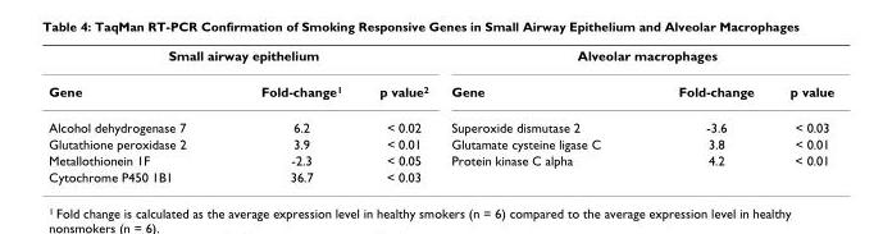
<table><tbody><tr><td colspan="3">Small airway epithelium</td><td colspan="3">Alveolar macrophages</td></tr><tr><td>Gene</td><td>Fold-change<sup>1</sup></td><td>p value<sup>2</sup></td><td>Gene</td><td>Fold-change</td><td>p value</td></tr><tr><td>Alcohol dehydrogenase 7</td><td>6.2</td><td>&lt; 0.02</td><td>Superoxide dismutase 2</td><td>-3.6</td><td>&lt; 0.03</td></tr><tr><td>Glutathione peroxidase 2</td><td>3.9</td><td>&lt; 0.01</td><td>Glutamate cysteine ligase C</td><td>3.8</td><td>&lt; 0.01</td></tr><tr><td>Metallothionein 1F</td><td>-2.3</td><td>&lt; 0.05</td><td>Protein kinase C alpha</td><td>4.2</td><td>&lt; 0.01</td></tr><tr><td>Cytochrome P450 1B1</td><td>36.7</td><td>&lt; 0.03</td><td></td><td></td><td></td></tr></tbody></table>